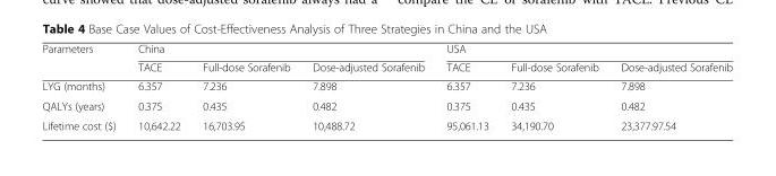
<table><thead><tr><td rowspan="2">Parameters</td><td colspan="3">China</td><td colspan="3">USA</td></tr><tr><td>TACE</td><td>Full-dose Sorafenib</td><td>Dose-adjusted Sorafenib</td><td>TACE</td><td>Full-dose Sorafenib</td><td>Dose-adjusted Sorafenib</td></tr></thead><tbody><tr><td>LYG (months)</td><td>6.357</td><td>7.236</td><td>7.898</td><td>6.357</td><td>7.236</td><td>7.898</td></tr><tr><td>QALYs (years)</td><td>0.375</td><td>0.435</td><td>0.482</td><td>0.375</td><td>0.435</td><td>0.482</td></tr><tr><td>Lifetime cost ($)</td><td>10,642.22</td><td>16,703.95</td><td>10,488.72</td><td>95,061.13</td><td>34,190.70</td><td>23,377.97.54</td></tr></tbody></table>